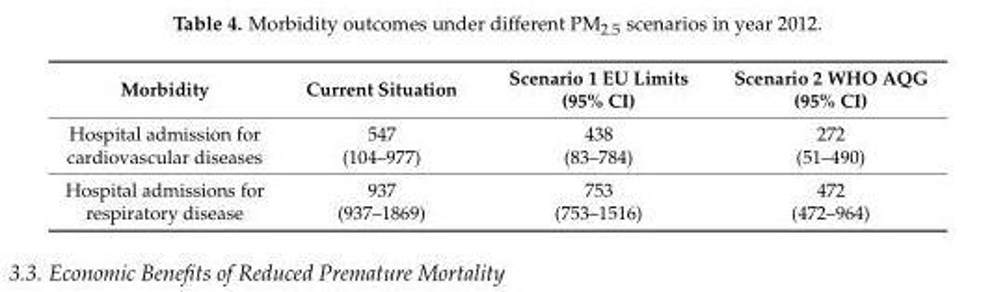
<table><thead><tr><td>Morbidity</td><td>Current Situation</td><td>Scenario 1 EU Limits (95% CI)</td><td>Scenario 2 WHO AQG (95% CI)</td></tr></thead><tbody><tr><td>Hospital admission for cardiovascular diseases</td><td>547 (104–977)</td><td>438 (83–784)</td><td>272 (51–490)</td></tr><tr><td>Hospital admissions for respiratory disease</td><td>937 (937–1869)</td><td>753 (753–1516)</td><td>472 (472–964)</td></tr></tbody></table>